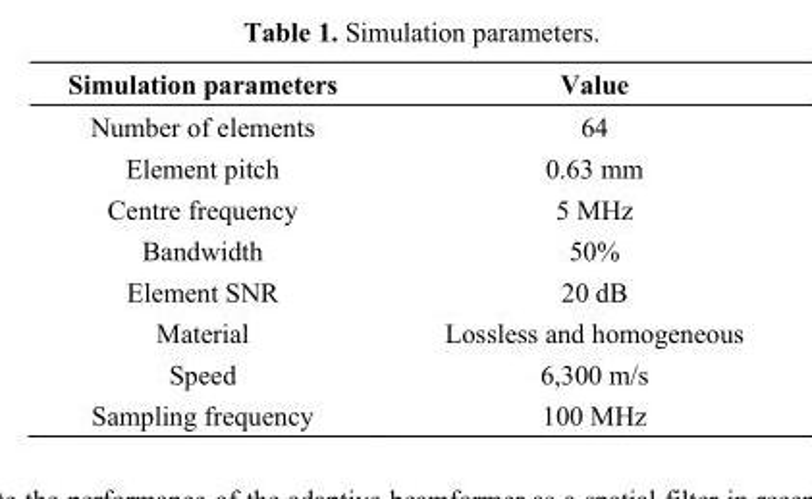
<table><thead><tr><td>Simulation parameters</td><td>Value</td></tr></thead><tbody><tr><td>Number of elements</td><td>64</td></tr><tr><td>Element pitch</td><td>0.63 mm</td></tr><tr><td>Centre frequency</td><td>5 MHz</td></tr><tr><td>Bandwidth</td><td>50%</td></tr><tr><td>Element SNR</td><td>20 dB</td></tr><tr><td>Material</td><td>Lossless and homogeneous</td></tr><tr><td>Speed</td><td>6,300 m/s</td></tr><tr><td>Sampling frequency</td><td>100 MHz</td></tr></tbody></table>